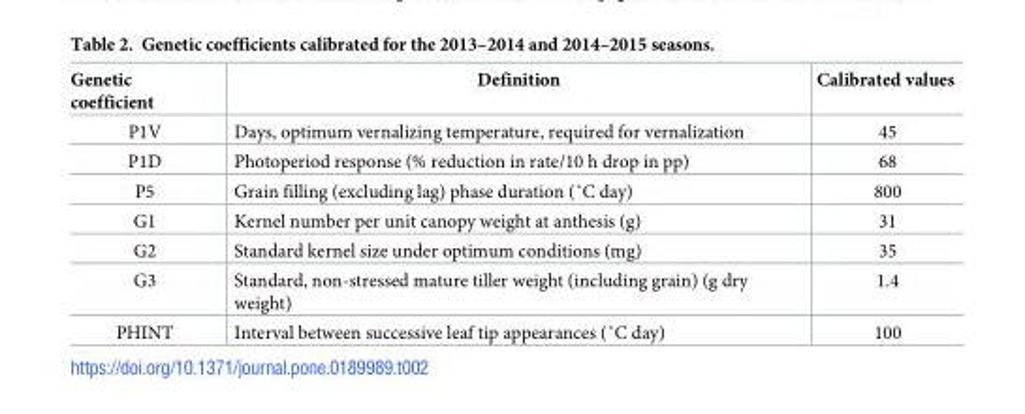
<table><thead><tr><td>Genetic coefficient</td><td>Definition</td><td>Calibrated values</td></tr></thead><tbody><tr><td>P1V</td><td>Days, optimum vernalizing temperature, required for vernalization</td><td>45</td></tr><tr><td>P1D</td><td>Photoperiod response (% reduction in rate/10 h drop in pp)</td><td>68</td></tr><tr><td>P5</td><td>Grain filling (excluding lag) phase duration (˚C day)</td><td>800</td></tr><tr><td>G1</td><td>Kernel number per unit canopy weight at anthesis (g)</td><td>31</td></tr><tr><td>G2</td><td>Standard kernel size under optimum conditions (mg)</td><td>35</td></tr><tr><td>G3</td><td>Standard, non-stressed mature tiller weight (including grain) (g dry weight)</td><td>1.4</td></tr><tr><td>PHINT</td><td>Interval between successive leaf tip appearances (˚C day)</td><td>100</td></tr></tbody></table>